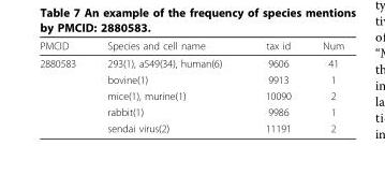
<table><thead><tr><td>PMCID</td><td>Species and cell name</td><td>tax id</td><td>Num</td></tr></thead><tbody><tr><td rowspan="5">2880583</td><td>293(1), a549(34), human(6)</td><td>9606</td><td>41</td></tr><tr><td>bovine(1)</td><td>9913</td><td>1</td></tr><tr><td>mice(1), murine(1)</td><td>10090</td><td>2</td></tr><tr><td>rabbit(1)</td><td>9986</td><td>1</td></tr><tr><td>sendai virus(2)</td><td>11191</td><td>2</td></tr></tbody></table>